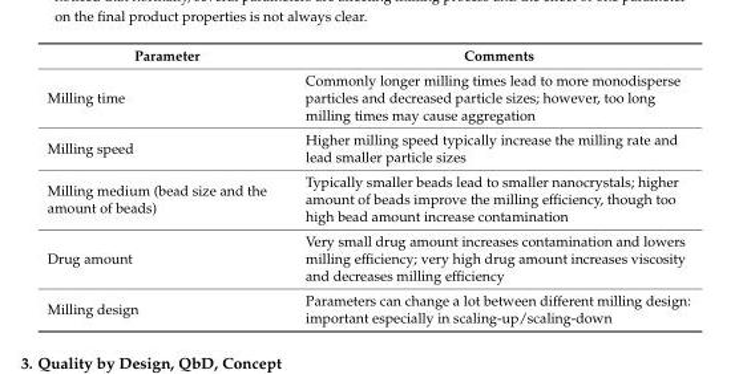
<table><thead><tr><td>Parameter</td><td>Comments</td></tr></thead><tbody><tr><td>Milling time</td><td>Commonly longer milling times lead to more monodisperse particles and decreased particle sizes; however, too long milling times may cause aggregation</td></tr><tr><td>Milling speed</td><td>Higher milling speed typically increase the milling rate and lead smaller particle sizes</td></tr><tr><td>Milling medium (bead size and the amount of beads)</td><td>Typically smaller beads lead to smaller nanocrystals; higher amount of beads improve the milling efficiency, though too high bead amount increase contamination</td></tr><tr><td>Drug amount</td><td>Very small drug amount increases contamination and lowers milling efficiency; very high drug amount increases viscosity and decreases milling efficiency</td></tr><tr><td>Milling design</td><td>Parameters can change a lot between different milling design: important especially in scaling-up/scaling-down</td></tr></tbody></table>